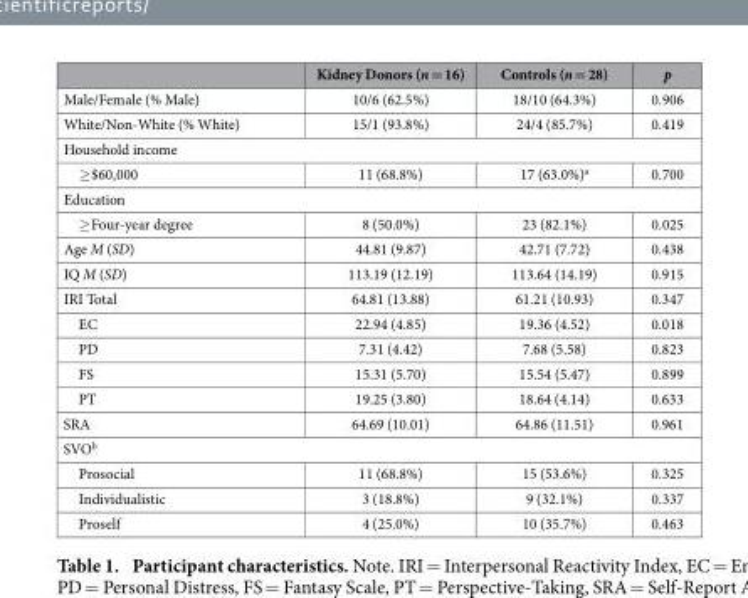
<table><thead><tr><td></td><td>Kidney Donors (n = 16)</td><td>Controls (n = 28)</td><td>p</td></tr></thead><tbody><tr><td>Male/Female (% Male)</td><td>10/6 (62.5%)</td><td>18/10 (64.3%)</td><td>0.906</td></tr><tr><td>White/Non-White (% White)</td><td>15/1 (93.8%)</td><td>24/4 (85.7%)</td><td>0.419</td></tr><tr><td colspan="4">Household income</td></tr><tr><td>≥ $60,000</td><td>11 (68.8%)</td><td>17 (63.0%)<sup>a</sup></td><td>0.700</td></tr><tr><td colspan="4">Education</td></tr><tr><td>≥ Four-year degree</td><td>8 (50.0%)</td><td>23 (82.1%)</td><td>0.025</td></tr><tr><td>Age M (SD)</td><td>44.81 (9.87)</td><td>42.71 (7.72)</td><td>0.438</td></tr><tr><td>IQ M (SD)</td><td>113.19 (12.19)</td><td>113.64 (14.19)</td><td>0.915</td></tr><tr><td>IRI Total</td><td>64.81 (13.88)</td><td>61.21 (10.93)</td><td>0.347</td></tr><tr><td>EC</td><td>22.94 (4.85)</td><td>19.36 (4.52)</td><td>0.018</td></tr><tr><td>PD</td><td>7.31 (4.42)</td><td>7.68 (5.58)</td><td>0.823</td></tr><tr><td>FS</td><td>15.31 (5.70)</td><td>15.54 (5.47)</td><td>0.899</td></tr><tr><td>PT</td><td>19.25 (3.80)</td><td>18.64 (4.14)</td><td>0.633</td></tr><tr><td>SRA</td><td>64.69 (10.01)</td><td>64.86 (11.51)</td><td>0.961</td></tr><tr><td colspan="4">SVO<sup>b</sup></td></tr><tr><td>Prosocial</td><td>11 (68.8%)</td><td>15 (53.6%)</td><td>0.325</td></tr><tr><td>Individualistic</td><td>3 (18.8%)</td><td>9 (32.1%)</td><td>0.337</td></tr><tr><td>Proself</td><td>4 (25.0%)</td><td>10 (35.7%)</td><td>0.463</td></tr></tbody></table>